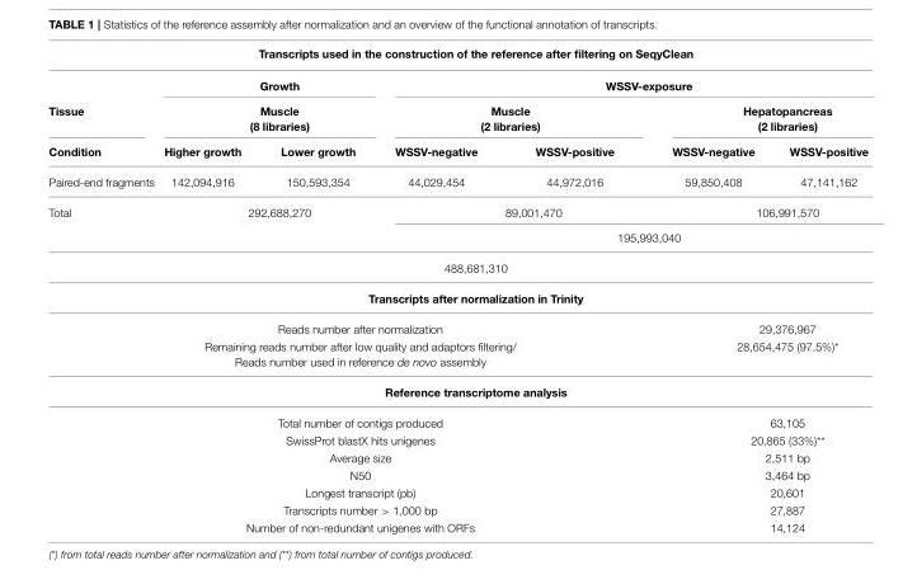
<table><thead><tr><td colspan="7">Transcripts used in the construction of the reference after filtering on SeqyClean</td></tr><tr><td rowspan="3">Tissue Condition</td><td rowspan="2" colspan="2">Growth Muscle (8 libraries)</td><td colspan="4">WSSV-exposure</td></tr><tr><td colspan="2">Muscle (2 libraries)</td><td colspan="2">Hepatopancreas (2 libraries)</td></tr><tr><td>Higher growth</td><td>Lower growth</td><td>WSSV-negative</td><td>WSSV-positive</td><td>WSSV-negative</td><td>WSSV-positive</td></tr></thead><tbody><tr><td>Paired-end fragments</td><td>142,094,916</td><td>150,593,354</td><td>44,029,454</td><td>44,972,016</td><td>59,850,408</td><td>47,141,162</td></tr><tr><td rowspan="2">Total</td><td colspan="2">292,688,270</td><td colspan="2">89,001,470</td><td colspan="2">106,991,570</td></tr><tr><td></td><td></td><td colspan="4">195,993,040</td></tr><tr><td colspan="7">488,681,310</td></tr><tr><td colspan="7">Transcripts after normalization in Trinity</td></tr><tr><td colspan="5">Reads number after normalization</td><td colspan="2">29,376,967</td></tr><tr><td colspan="5">Remaining reads number after low quality and adaptors filtering/ Reads number used in reference de novo assembly</td><td colspan="2">28,654,475 (97.5%)*</td></tr><tr><td colspan="7">Reference transcriptome analysis</td></tr><tr><td colspan="5">Total number of contigs produced</td><td colspan="2">63,105</td></tr><tr><td colspan="5">SwissProt blastX hits unigenes</td><td colspan="2">20,865 (33%)**</td></tr><tr><td colspan="5">Average size</td><td colspan="2">2,511 bp</td></tr><tr><td colspan="5">N50</td><td colspan="2">3,464 bp</td></tr><tr><td colspan="5">Longest transcript (pb)</td><td colspan="2">20,601</td></tr><tr><td colspan="5">Transcripts number &gt; 1,000 bp</td><td colspan="2">27,887</td></tr><tr><td colspan="5">Number of non-redundant unigenes with ORFs</td><td colspan="2">14,124</td></tr></tbody></table>